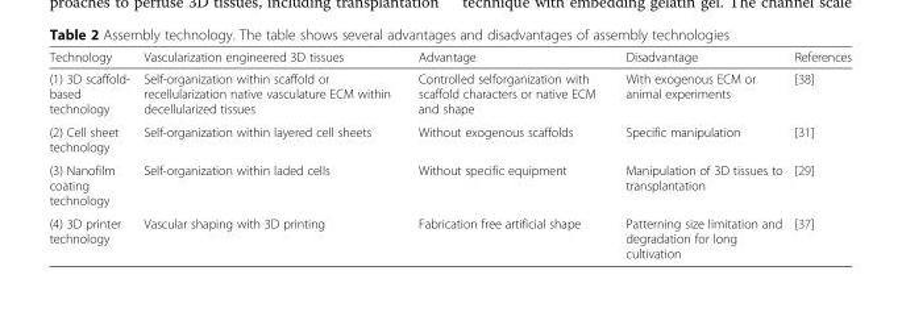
<table><thead><tr><td>Technology</td><td>Vascularization engineered 3D tissues</td><td>Advantage</td><td>Disadvantage</td><td>References</td></tr></thead><tbody><tr><td>(1) 3D scaffold- based technology</td><td>Self-organization within scaffold or recellularization native vasculature ECM within decellularized tissues</td><td>Controlled selforganization with scaffold characters or native ECM and shape</td><td>With exogenous ECM or animal experiments</td><td>[38]</td></tr><tr><td>(2) Cell sheet technology</td><td>Self-organization within layered cell sheets</td><td>Without exogenous scaffolds</td><td>Specific manipulation</td><td>[31]</td></tr><tr><td>(3) Nanofilm coating technology</td><td>Self-organization within laded cells</td><td>Without specific equipment</td><td>Manipulation of 3D tissues to transplantation</td><td>[29]</td></tr><tr><td>(4) 3D printer technology</td><td>Vascular shaping with 3D printing</td><td>Fabrication free artificial shape</td><td>Patterning size limitation and degradation for long cultivation</td><td>[37]</td></tr></tbody></table>